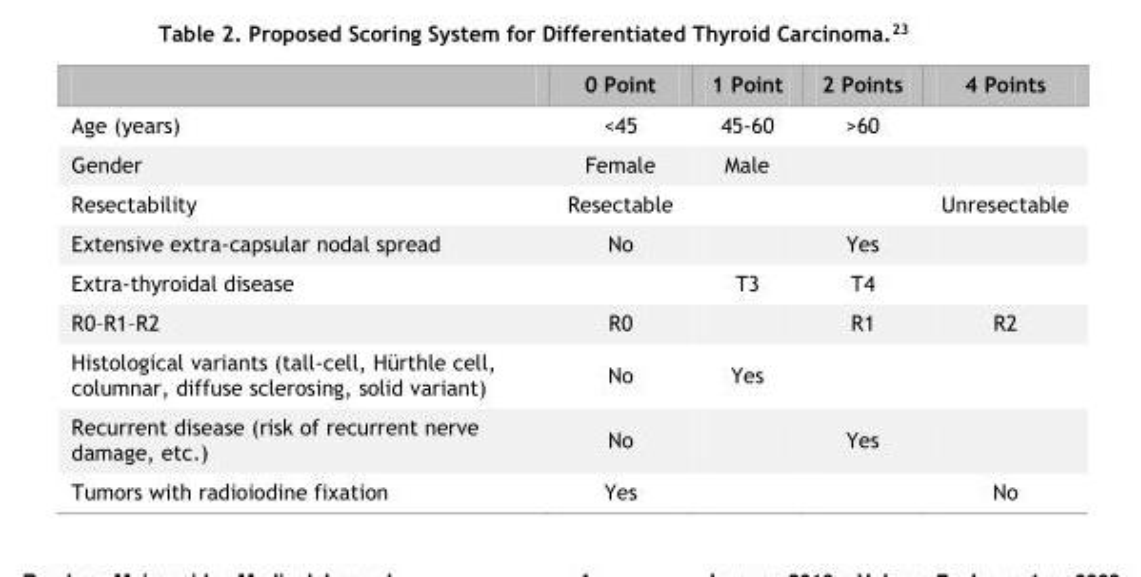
<table><thead><tr><td></td><td>0 Point</td><td>1 Point</td><td>2 Points</td><td>4 Points</td></tr></thead><tbody><tr><td>Age (years)</td><td>&lt;45</td><td>45-60</td><td>&gt;60</td><td></td></tr><tr><td>Gender</td><td>Female</td><td>Male</td><td></td><td></td></tr><tr><td>Resectability</td><td>Resectable</td><td></td><td></td><td>Unresectable</td></tr><tr><td>Extensive extra-capsular nodal spread</td><td>No</td><td></td><td>Yes</td><td></td></tr><tr><td>Extra-thyroidal disease</td><td></td><td>T3</td><td>T4</td><td></td></tr><tr><td>R0–R1–R2</td><td>R0</td><td></td><td>R1</td><td>R2</td></tr><tr><td>Histological variants (tall-cell, Hürthle cell, columnar, diffuse sclerosing, solid variant)</td><td>No</td><td>Yes</td><td></td><td></td></tr><tr><td>Recurrent disease (risk of recurrent nerve damage, etc.)</td><td>No</td><td></td><td>Yes</td><td></td></tr><tr><td>Tumors with radioiodine fixation</td><td>Yes</td><td></td><td></td><td>No</td></tr></tbody></table>